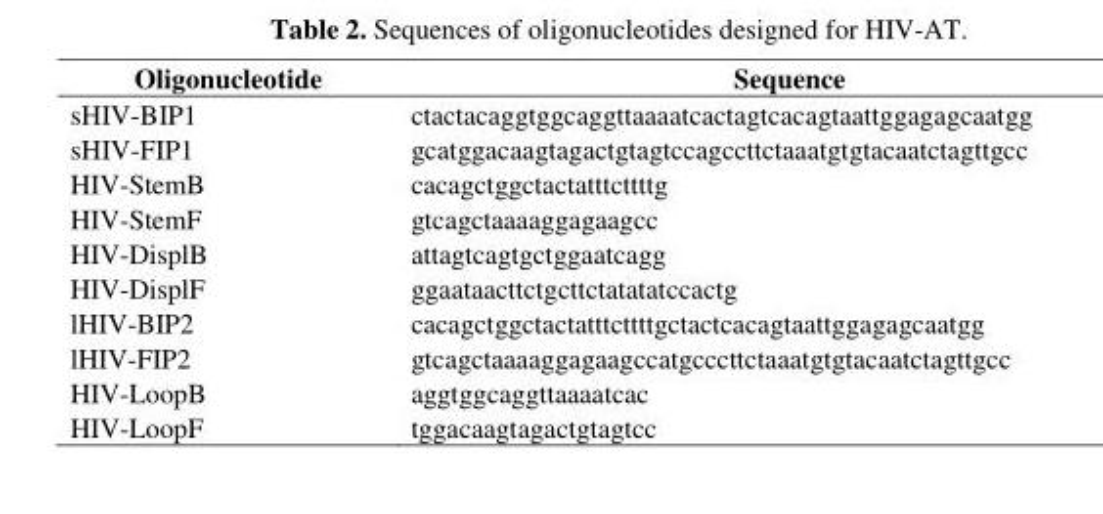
<table><thead><tr><td>Oligonucleotide</td><td>Sequence</td></tr></thead><tbody><tr><td>sHIV-BIP1</td><td>ctactacaggtggcaggttaaaatcactagtcacagtaattggagagcaatgg</td></tr><tr><td>sHIV-FIP1</td><td>gcatggacaagtagactgtagtccagccttctaaatgtgtacaatctagttgcc</td></tr><tr><td>HIV-StemB</td><td>cacagctggctactatttcttttg</td></tr><tr><td>HIV-StemF</td><td>gtcagctaaaaggagaagcc</td></tr><tr><td>HIV-DisplB</td><td>attagtcagtgctggaatcagg</td></tr><tr><td>HIV-DisplF</td><td>ggaataacttctgcttctatatatccactg</td></tr><tr><td>lHIV-BIP2</td><td>cacagctggctactatttcttttgctactcacagtaattggagagcaatgg</td></tr><tr><td>lHIV-FIP2</td><td>gtcagctaaaaggagaagccatgcccttctaaatgtgtacaatctagttgcc</td></tr><tr><td>HIV-LoopB</td><td>aggtggcaggttaaaatcac</td></tr><tr><td>HIV-LoopF</td><td>tggacaagtagactgtagtcc</td></tr></tbody></table>